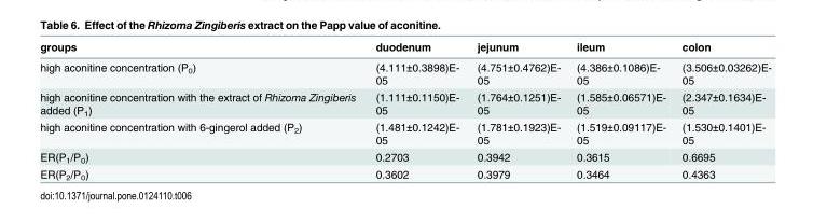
<table><thead><tr><td>groups</td><td>duodenum</td><td>jejunum</td><td>ileum</td><td>colon</td></tr></thead><tbody><tr><td>high aconitine concentration (P<sub>0</sub>)</td><td>(4.111±0.3898)E- 05</td><td>(4.751±0.4762)E- 05</td><td>(4.386±0.1086)E- 05</td><td>(3.506±0.03262)E- 05</td></tr><tr><td>high aconitine concentration with the extract of Rhizoma Zingiberis added (P<sub>1</sub>)</td><td>(1.111±0.1150)E- 05</td><td>(1.764±0.1251)E- 05</td><td>(1.585±0.06571)E- 05</td><td>(2.347±0.1634)E- 05</td></tr><tr><td>high aconitine concentration with 6-gingerol added (P<sub>2</sub>)</td><td>(1.481±0.1242)E- 05</td><td>(1.781±0.1923)E- 05</td><td>(1.519±0.09117)E- 05</td><td>(1.530±0.1401)E- 05</td></tr><tr><td>ER(P<sub>1</sub>/P<sub>0</sub>)</td><td>0.2703</td><td>0.3942</td><td>0.3615</td><td>0.6695</td></tr><tr><td>ER(P<sub>2</sub>/P<sub>0</sub>)</td><td>0.3602</td><td>0.3979</td><td>0.3464</td><td>0.4363</td></tr></tbody></table>